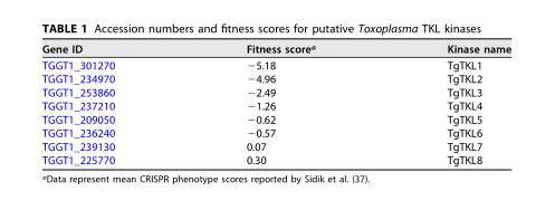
<table><thead><tr><td>Gene ID</td><td>Fitness score<sup>a</sup></td><td>Kinase name</td></tr></thead><tbody><tr><td>TGGT1_301270</td><td>−5.18</td><td>TgTKL1</td></tr><tr><td>TGGT1_234970</td><td>−4.96</td><td>TgTKL2</td></tr><tr><td>TGGT1_253860</td><td>−2.49</td><td>TgTKL3</td></tr><tr><td>TGGT1_237210</td><td>−1.26</td><td>TgTKL4</td></tr><tr><td>TGGT1_209050</td><td>−0.62</td><td>TgTKL5</td></tr><tr><td>TGGT1_236240</td><td>−0.57</td><td>TgTKL6</td></tr><tr><td>TGGT1_239130</td><td>0.07</td><td>TgTKL7</td></tr><tr><td>TGGT1_225770</td><td>0.30</td><td>TgTKL8</td></tr></tbody></table>